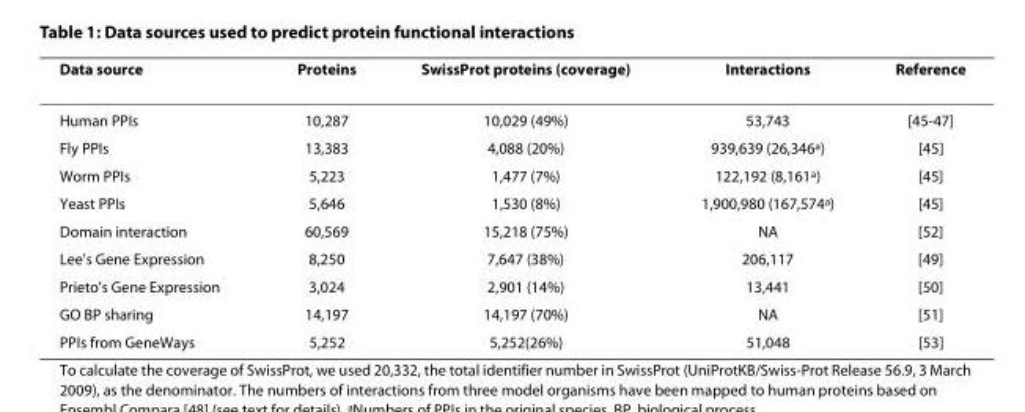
<table><thead><tr><td>Data source</td><td>Proteins</td><td>SwissProt proteins (coverage)</td><td>Interactions</td><td>Reference</td></tr></thead><tbody><tr><td>Human PPIs</td><td>10,287</td><td>10,029 (49%)</td><td>53,743</td><td>[45-47]</td></tr><tr><td>Fly PPIs</td><td>13,383</td><td>4,088 (20%)</td><td>939,639 (26,346<sup>a</sup>)</td><td>[45]</td></tr><tr><td>Worm PPIs</td><td>5,223</td><td>1,477 (7%)</td><td>122,192 (8,161<sup>a</sup>)</td><td>[45]</td></tr><tr><td>Yeast PPIs</td><td>5,646</td><td>1,530 (8%)</td><td>1,900,980 (167,574<sup>a</sup>)</td><td>[45]</td></tr><tr><td>Domain interaction</td><td>60,569</td><td>15,218 (75%)</td><td>NA</td><td>[52]</td></tr><tr><td>Lee&#x27;s Gene Expression</td><td>8,250</td><td>7,647 (38%)</td><td>206,117</td><td>[49]</td></tr><tr><td>Prieto&#x27;s Gene Expression</td><td>3,024</td><td>2,901 (14%)</td><td>13,441</td><td>[50]</td></tr><tr><td>GO BP sharing</td><td>14,197</td><td>14,197 (70%)</td><td>NA</td><td>[51]</td></tr><tr><td>PPIs from GeneWays</td><td>5,252</td><td>5,252(26%)</td><td>51,048</td><td>[53]</td></tr></tbody></table>